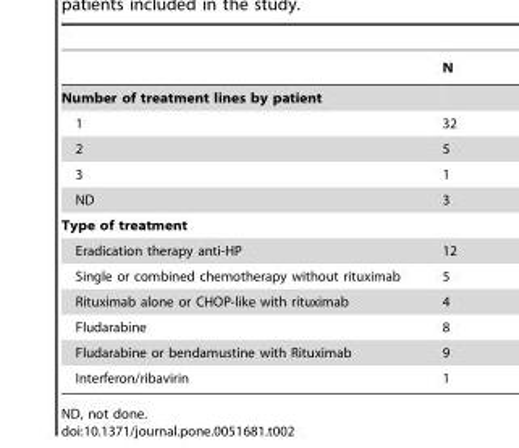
<table><thead><tr><td></td><td>N</td></tr></thead><tbody><tr><td colspan="2">Number of treatment lines by patient</td></tr><tr><td>1</td><td>32</td></tr><tr><td>2</td><td>5</td></tr><tr><td>3</td><td>1</td></tr><tr><td>ND</td><td>3</td></tr><tr><td colspan="2">Type of treatment</td></tr><tr><td>Eradication therapy anti-HP</td><td>12</td></tr><tr><td>Single or combined chemotherapy without rituximab</td><td>5</td></tr><tr><td>Rituximab alone or CHOP-like with rituximab</td><td>4</td></tr><tr><td>Fludarabine</td><td>8</td></tr><tr><td>Fludarabine or bendamustine with Rituximab</td><td>9</td></tr><tr><td>Interferon/ribavirin</td><td>1</td></tr></tbody></table>